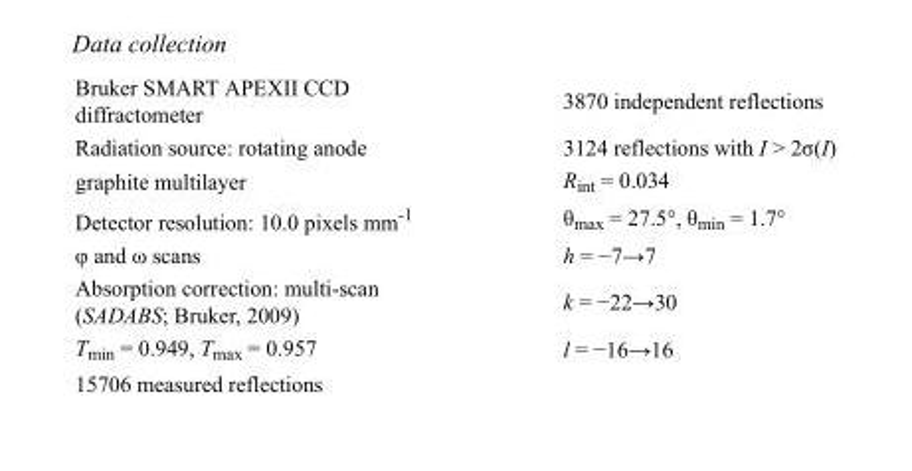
<table><tbody><tr><td>Bruker SMART APEXII CCD diffractometer</td><td>3870 independent reflections</td></tr><tr><td>Radiation source: rotating anode</td><td>3124 reflections with I &gt; 2σ(I)</td></tr><tr><td>graphite multilayer</td><td>R<sub>int</sub> = 0.034</td></tr><tr><td>Detector resolution: 10.0 pixels mm<sup>-1</sup></td><td>θ<sub>max</sub> = 27.5°, θ<sub>min</sub> = 1.7°</td></tr><tr><td>φ and ω scans</td><td>h = −7→7</td></tr><tr><td>Absorption correction: multi-scan (SADABS; Bruker, 2009)</td><td>k = −22→30</td></tr><tr><td>T<sub>min</sub> = 0.949, T<sub>max</sub> = 0.957</td><td>l = −16→16</td></tr><tr><td>15706 measured reflections</td><td></td></tr></tbody></table>